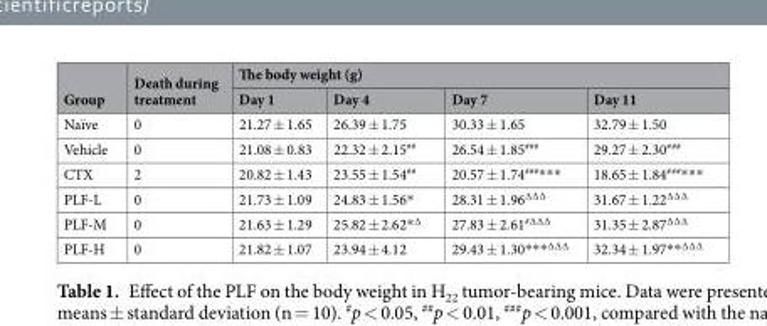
<table><thead><tr><td rowspan="2">Group</td><td rowspan="2">Death during treatment</td><td colspan="4">The body weight (g)</td></tr><tr><td>Day 1</td><td>Day 4</td><td>Day 7</td><td>Day 11</td></tr></thead><tbody><tr><td>Naïve</td><td>0</td><td>21.27 ± 1.65</td><td>26.39 ± 1.75</td><td>30.33 ± 1.65</td><td>32.79 ± 1.50</td></tr><tr><td>Vehicle</td><td>0</td><td>21.08 ± 0.83</td><td>22.32 ± 2.15<sup>##</sup></td><td>26.54 ± 1.85<sup>###</sup></td><td>29.27 ± 2.30<sup>###</sup></td></tr><tr><td>CTX</td><td>2</td><td>20.82 ± 1.43</td><td>23.55 ± 1.54<sup>##</sup></td><td>20.57 ± 1.74<sup>###</sup>***</td><td>18.65 ± 1.84<sup>###</sup>***</td></tr><tr><td>PLF-L</td><td>0</td><td>21.73 ± 1.09</td><td>24.83 ± 1.56*</td><td>28.31 ± 1.96<sup>∆∆∆</sup></td><td>31.67 ± 1.22<sup>∆∆∆</sup></td></tr><tr><td>PLF-M</td><td>0</td><td>21.63 ± 1.29</td><td>25.82 ± 2.62*<sup>∆</sup></td><td>27.83 ± 2.61<sup>#∆∆∆</sup></td><td>31.35 ± 2.87<sup>∆∆∆</sup></td></tr><tr><td>PLF-H</td><td>0</td><td>21.82 ± 1.07</td><td>23.94 ± 4.12</td><td>29.43 ± 1.30***<sup>∆∆∆</sup></td><td>32.34 ± 1.97**<sup>∆∆∆</sup></td></tr></tbody></table>